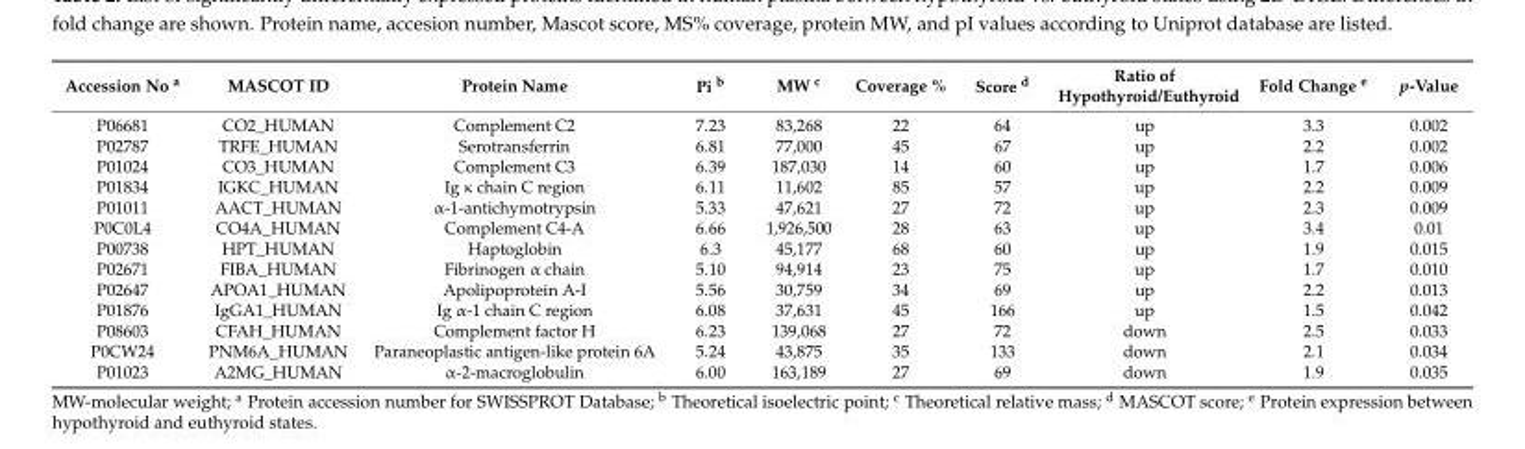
<table><thead><tr><td>Accession No <sup>a</sup></td><td>MASCOT ID</td><td>Protein Name</td><td>Pi <sup>b</sup></td><td>MW <sup>c</sup></td><td>Coverage %</td><td>Score <sup>d</sup></td><td>Ratio of Hypothyroid/Euthyroid</td><td>Fold Change <sup>e</sup></td><td>p-Value</td></tr></thead><tbody><tr><td>P06681</td><td>CO2_HUMAN</td><td>Complement C2</td><td>7.23</td><td>83,268</td><td>22</td><td>64</td><td>up</td><td>3.3</td><td>0.002</td></tr><tr><td>P02787</td><td>TRFE_HUMAN</td><td>Serotransferrin</td><td>6.81</td><td>77,000</td><td>45</td><td>67</td><td>up</td><td>2.2</td><td>0.002</td></tr><tr><td>P01024</td><td>CO3_HUMAN</td><td>Complement C3</td><td>6.39</td><td>187,030</td><td>14</td><td>60</td><td>up</td><td>1.7</td><td>0.006</td></tr><tr><td>P01834</td><td>IGKC_HUMAN</td><td>Ig κ chain C region</td><td>6.11</td><td>11,602</td><td>85</td><td>57</td><td>up</td><td>2.2</td><td>0.009</td></tr><tr><td>P01011</td><td>AACT_HUMAN</td><td>α-1-antichymotrypsin</td><td>5.33</td><td>47,621</td><td>27</td><td>72</td><td>up</td><td>2.3</td><td>0.009</td></tr><tr><td>P0C0L4</td><td>CO4A_HUMAN</td><td>Complement C4-A</td><td>6.66</td><td>1,926,500</td><td>28</td><td>63</td><td>up</td><td>3.4</td><td>0.01</td></tr><tr><td>P00738</td><td>HPT_HUMAN</td><td>Haptoglobin</td><td>6.3</td><td>45,177</td><td>68</td><td>60</td><td>up</td><td>1.9</td><td>0.015</td></tr><tr><td>P02671</td><td>FIBA_HUMAN</td><td>Fibrinogen α chain</td><td>5.10</td><td>94,914</td><td>23</td><td>75</td><td>up</td><td>1.7</td><td>0.010</td></tr><tr><td>P02647</td><td>APOA1_HUMAN</td><td>Apolipoprotein A-I</td><td>5.56</td><td>30,759</td><td>34</td><td>69</td><td>up</td><td>2.2</td><td>0.013</td></tr><tr><td>P01876</td><td>IgGA1_HUMAN</td><td>Ig α-1 chain C region</td><td>6.08</td><td>37,631</td><td>45</td><td>166</td><td>up</td><td>1.5</td><td>0.042</td></tr><tr><td>P08603</td><td>CFAH_HUMAN</td><td>Complement factor H</td><td>6.23</td><td>139,068</td><td>27</td><td>72</td><td>down</td><td>2.5</td><td>0.033</td></tr><tr><td>P0CW24</td><td>PNM6A_HUMAN</td><td>Paraneoplastic antigen-like protein 6A</td><td>5.24</td><td>43,875</td><td>35</td><td>133</td><td>down</td><td>2.1</td><td>0.034</td></tr><tr><td>P01023</td><td>A2MG_HUMAN</td><td>α-2-macroglobulin</td><td>6.00</td><td>163,189</td><td>27</td><td>69</td><td>down</td><td>1.9</td><td>0.035</td></tr></tbody></table>